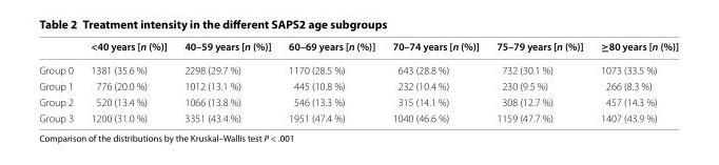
<table><thead><tr><td></td><td>&lt;40 years [n (%)]</td><td>40–59 years [n (%)]</td><td>60–69 years [n (%)]</td><td>70–74 years [n (%)]</td><td>75–79 years [n (%)]</td><td>≥80 years [n (%)]</td></tr></thead><tbody><tr><td>Group 0</td><td>1381 (35.6 %)</td><td>2298 (29.7 %)</td><td>1170 (28.5 %)</td><td>643 (28.8 %)</td><td>732 (30.1 %)</td><td>1073 (33.5 %)</td></tr><tr><td>Group 1</td><td>776 (20.0 %)</td><td>1012 (13.1 %)</td><td>445 (10.8 %)</td><td>232 (10.4 %)</td><td>230 (9.5 %)</td><td>266 (8.3 %)</td></tr><tr><td>Group 2</td><td>520 (13.4 %)</td><td>1066 (13.8 %)</td><td>546 (13.3 %)</td><td>315 (14.1 %)</td><td>308 (12.7 %)</td><td>457 (14.3 %)</td></tr><tr><td>Group 3</td><td>1200 (31.0 %)</td><td>3351 (43.4 %)</td><td>1951 (47.4 %)</td><td>1040 (46.6 %)</td><td>1159 (47.7 %)</td><td>1407 (43.9 %)</td></tr></tbody></table>